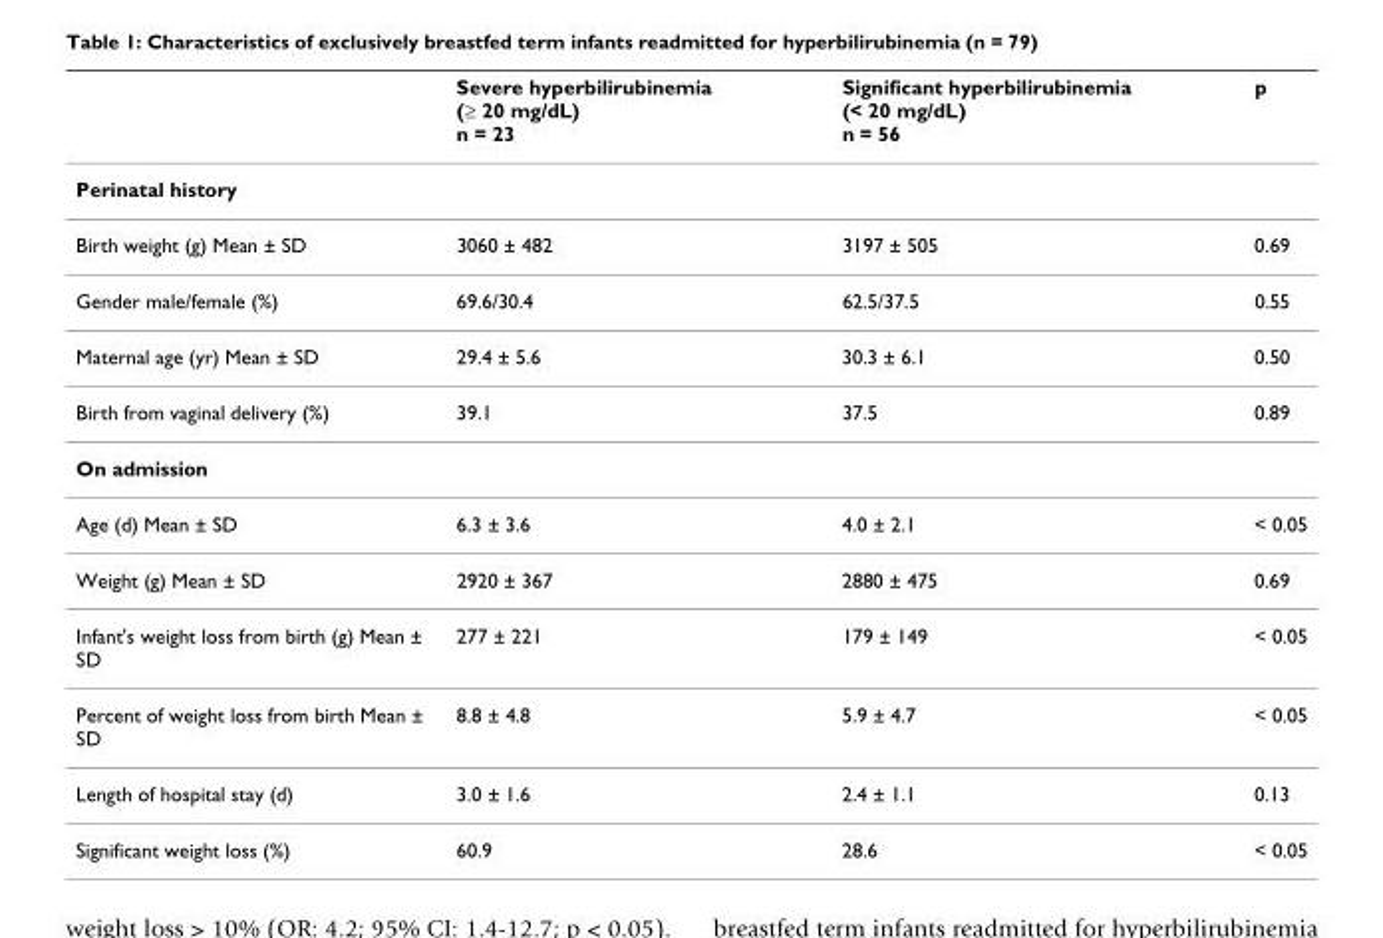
<table><thead><tr><td></td><td>Severe hyperbilirubinemia (≥ 20 mg/dL) n = 23</td><td>Significant hyperbilirubinemia (&lt; 20 mg/dL) n = 56</td><td>p</td></tr></thead><tbody><tr><td colspan="4">Perinatal history</td></tr><tr><td>Birth weight (g) Mean ± SD</td><td>3060 ± 482</td><td>3197 ± 505</td><td>0.69</td></tr><tr><td>Gender male/female (%)</td><td>69.6/30.4</td><td>62.5/37.5</td><td>0.55</td></tr><tr><td>Maternal age (yr) Mean ± SD</td><td>29.4 ± 5.6</td><td>30.3 ± 6.1</td><td>0.50</td></tr><tr><td>Birth from vaginal delivery (%)</td><td>39.1</td><td>37.5</td><td>0.89</td></tr><tr><td colspan="4">On admission</td></tr><tr><td>Age (d) Mean ± SD</td><td>6.3 ± 3.6</td><td>4.0 ± 2.1</td><td>&lt; 0.05</td></tr><tr><td>Weight (g) Mean ± SD</td><td>2920 ± 367</td><td>2880 ± 475</td><td>0.69</td></tr><tr><td>Infant&#x27;s weight loss from birth (g) Mean ± SD</td><td>277 ± 221</td><td>179 ± 149</td><td>&lt; 0.05</td></tr><tr><td>Percent of weight loss from birth Mean ± SD</td><td>8.8 ± 4.8</td><td>5.9 ± 4.7</td><td>&lt; 0.05</td></tr><tr><td>Length of hospital stay (d)</td><td>3.0 ± 1.6</td><td>2.4 ± 1.1</td><td>0.13</td></tr><tr><td>Significant weight loss (%)</td><td>60.9</td><td>28.6</td><td>&lt; 0.05</td></tr></tbody></table>